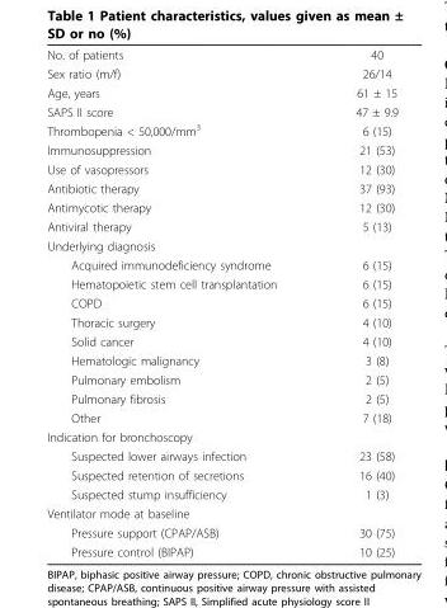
<table><tbody><tr><td>No. of patients</td><td>40</td></tr><tr><td>Sex ratio (m/f)</td><td>26/14</td></tr><tr><td>Age, years</td><td>61 ± 15</td></tr><tr><td>SAPS II score</td><td>47 ± 9.9</td></tr><tr><td>Thrombopenia &lt; 50,000/mm<sup>3</sup></td><td>6 (15)</td></tr><tr><td>Immunosuppression</td><td>21 (53)</td></tr><tr><td>Use of vasopressors</td><td>12 (30)</td></tr><tr><td>Antibiotic therapy</td><td>37 (93)</td></tr><tr><td>Antimycotic therapy</td><td>12 (30)</td></tr><tr><td>Antiviral therapy</td><td>5 (13)</td></tr><tr><td colspan="2">Underlying diagnosis</td></tr><tr><td>Acquired immunodeficiency syndrome</td><td>6 (15)</td></tr><tr><td>Hematopoietic stem cell transplantation</td><td>6 (15)</td></tr><tr><td>COPD</td><td>6 (15)</td></tr><tr><td>Thoracic surgery</td><td>4 (10)</td></tr><tr><td>Solid cancer</td><td>4 (10)</td></tr><tr><td>Hematologic malignancy</td><td>3 (8)</td></tr><tr><td>Pulmonary embolism</td><td>2 (5)</td></tr><tr><td>Pulmonary fibrosis</td><td>2 (5)</td></tr><tr><td>Other</td><td>7 (18)</td></tr><tr><td colspan="2">Indication for bronchoscopy</td></tr><tr><td>Suspected lower airways infection</td><td>23 (58)</td></tr><tr><td>Suspected retention of secretions</td><td>16 (40)</td></tr><tr><td>Suspected stump insufficiency</td><td>1 (3)</td></tr><tr><td colspan="2">Ventilator mode at baseline</td></tr><tr><td>Pressure support (CPAP/ASB)</td><td>30 (75)</td></tr><tr><td>Pressure control (BIPAP)</td><td>10 (25)</td></tr></tbody></table>